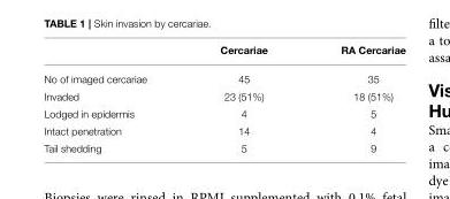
<table><thead><tr><td></td><td>Cercariae</td><td>RA Cercariae</td></tr></thead><tbody><tr><td>No of imaged cercariae</td><td>45</td><td>35</td></tr><tr><td>Invaded</td><td>23 (51%)</td><td>18 (51%)</td></tr><tr><td>Lodged in epidermis</td><td>4</td><td>5</td></tr><tr><td>Intact penetration</td><td>14</td><td>4</td></tr><tr><td>Tail shedding</td><td>5</td><td>9</td></tr></tbody></table>